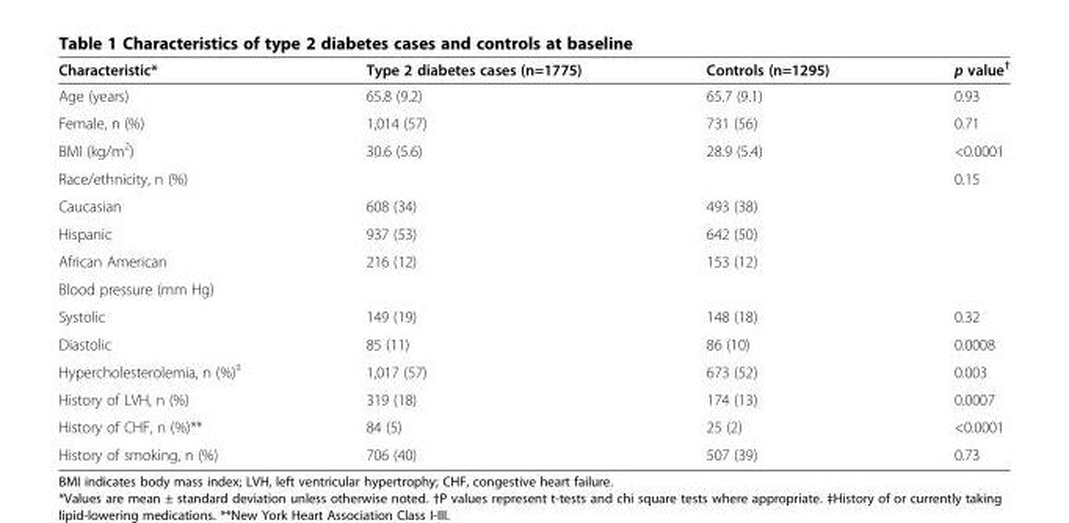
<table><thead><tr><td>Characteristic*</td><td>Type 2 diabetes cases (n=1775)</td><td>Controls (n=1295)</td><td>p value<sup>†</sup></td></tr></thead><tbody><tr><td>Age (years)</td><td>65.8 (9.2)</td><td>65.7 (9.1)</td><td>0.93</td></tr><tr><td>Female, n (%)</td><td>1,014 (57)</td><td>731 (56)</td><td>0.71</td></tr><tr><td>BMI (kg/m<sup>2</sup>)</td><td>30.6 (5.6)</td><td>28.9 (5.4)</td><td>&lt;0.0001</td></tr><tr><td colspan="3">Race/ethnicity, n (%)</td><td>0.15</td></tr><tr><td>Caucasian</td><td>608 (34)</td><td>493 (38)</td><td></td></tr><tr><td>Hispanic</td><td>937 (53)</td><td>642 (50)</td><td></td></tr><tr><td>African American</td><td>216 (12)</td><td>153 (12)</td><td></td></tr><tr><td colspan="4">Blood pressure (mm Hg)</td></tr><tr><td>Systolic</td><td>149 (19)</td><td>148 (18)</td><td>0.32</td></tr><tr><td>Diastolic</td><td>85 (11)</td><td>86 (10)</td><td>0.0008</td></tr><tr><td>Hypercholesterolemia, n (%)<sup>‡</sup></td><td>1,017 (57)</td><td>673 (52)</td><td>0.003</td></tr><tr><td>History of LVH, n (%)</td><td>319 (18)</td><td>174 (13)</td><td>0.0007</td></tr><tr><td>History of CHF, n (%)**</td><td>84 (5)</td><td>25 (2)</td><td>&lt;0.0001</td></tr><tr><td>History of smoking, n (%)</td><td>706 (40)</td><td>507 (39)</td><td>0.73</td></tr></tbody></table>